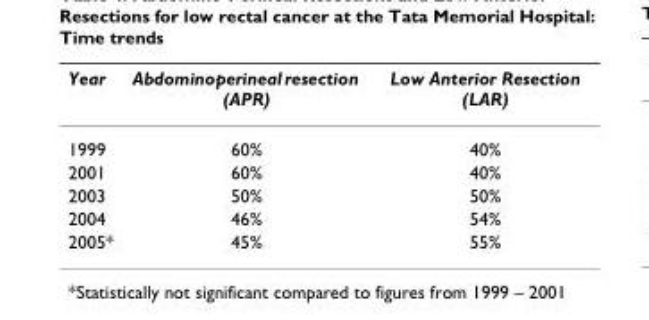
<table><thead><tr><td>Year</td><td>Abdominoperineal resection (APR)</td><td>Low Anterior Resection (LAR)</td></tr></thead><tbody><tr><td>1999</td><td>60%</td><td>40%</td></tr><tr><td>2001</td><td>60%</td><td>40%</td></tr><tr><td>2003</td><td>50%</td><td>50%</td></tr><tr><td>2004</td><td>46%</td><td>54%</td></tr><tr><td>2005*</td><td>45%</td><td>55%</td></tr></tbody></table>